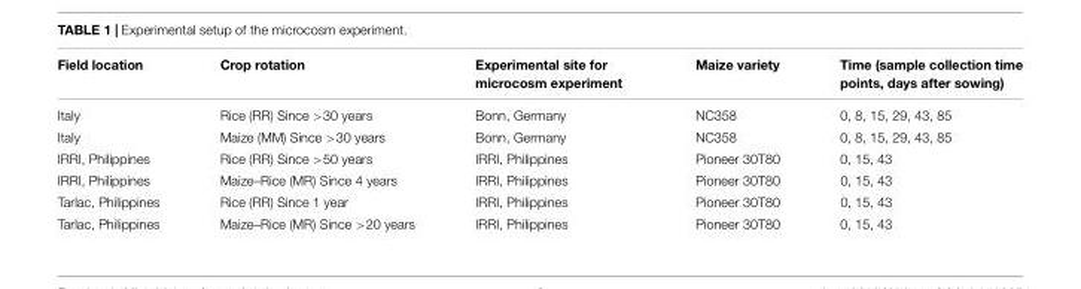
<table><thead><tr><td>Field location</td><td>Crop rotation</td><td>Experimental site for microcosm experiment</td><td>Maize variety</td><td>Time (sample collection time points, days after sowing)</td></tr></thead><tbody><tr><td>Italy</td><td>Rice (RR) Since &gt;30 years</td><td>Bonn, Germany</td><td>NC358</td><td>0, 8, 15, 29, 43, 85</td></tr><tr><td>Italy</td><td>Maize (MM) Since &gt;30 years</td><td>Bonn, Germany</td><td>NC358</td><td>0, 8, 15, 29, 43, 85</td></tr><tr><td>IRRI, Philippines</td><td>Rice (RR) Since &gt;50 years</td><td>IRRI, Philippines</td><td>Pioneer 30T80</td><td>0, 15, 43</td></tr><tr><td>IRRI, Philippines</td><td>Maize–Rice (MR) Since 4 years</td><td>IRRI, Philippines</td><td>Pioneer 30T80</td><td>0, 15, 43</td></tr><tr><td>Tarlac, Philippines</td><td>Rice (RR) Since 1 year</td><td>IRRI, Philippines</td><td>Pioneer 30T80</td><td>0, 15, 43</td></tr><tr><td>Tarlac, Philippines</td><td>Maize–Rice (MR) Since &gt;20 years</td><td>IRRI, Philippines</td><td>Pioneer 30T80</td><td>0, 15, 43</td></tr></tbody></table>